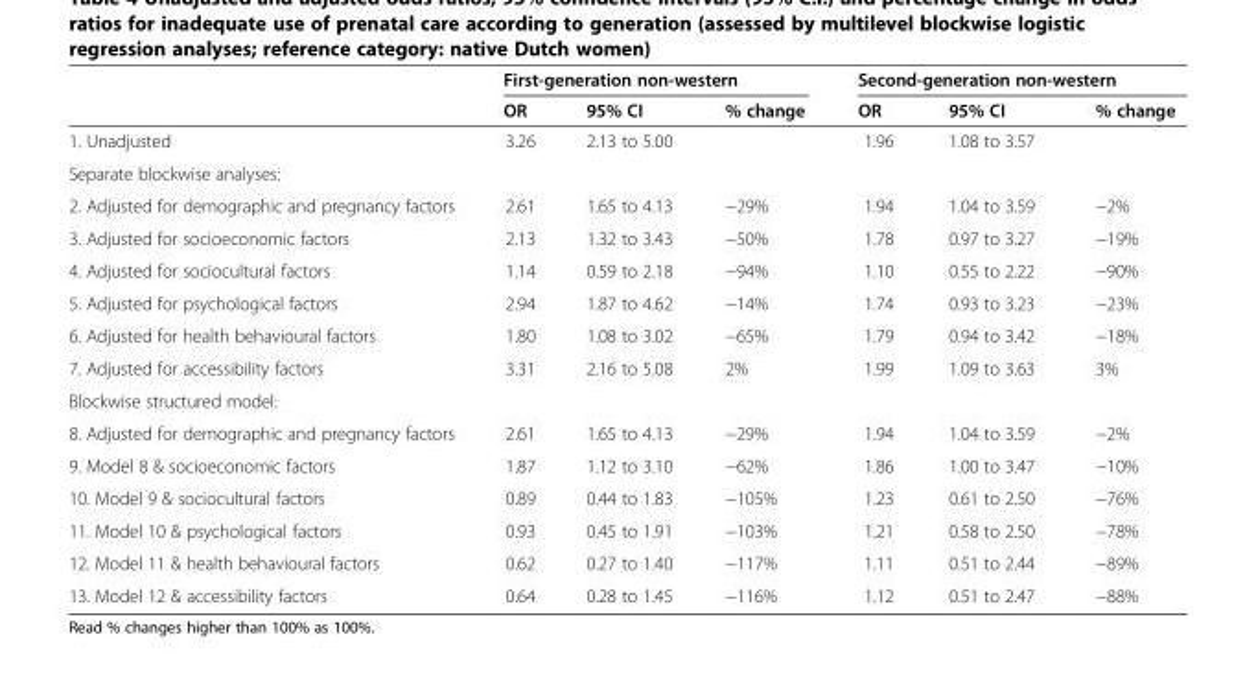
<table><thead><tr><td rowspan="2"></td><td colspan="3">First-generation non-western</td><td colspan="3">Second-generation non-western</td></tr><tr><td>OR</td><td>95% CI</td><td>% change</td><td>OR</td><td>95% CI</td><td>% change</td></tr></thead><tbody><tr><td>1. Unadjusted</td><td>3.26</td><td>2.13 to 5.00</td><td></td><td>1.96</td><td>1.08 to 3.57</td><td></td></tr><tr><td colspan="7">Separate blockwise analyses:</td></tr><tr><td>2. Adjusted for demographic and pregnancy factors</td><td>2.61</td><td>1.65 to 4.13</td><td>−29%</td><td>1.94</td><td>1.04 to 3.59</td><td>−2%</td></tr><tr><td>3. Adjusted for socioeconomic factors</td><td>2.13</td><td>1.32 to 3.43</td><td>−50%</td><td>1.78</td><td>0.97 to 3.27</td><td>−19%</td></tr><tr><td>4. Adjusted for sociocultural factors</td><td>1.14</td><td>0.59 to 2.18</td><td>−94%</td><td>1.10</td><td>0.55 to 2.22</td><td>−90%</td></tr><tr><td>5. Adjusted for psychological factors</td><td>2.94</td><td>1.87 to 4.62</td><td>−14%</td><td>1.74</td><td>0.93 to 3.23</td><td>−23%</td></tr><tr><td>6. Adjusted for health behavioural factors</td><td>1.80</td><td>1.08 to 3.02</td><td>−65%</td><td>1.79</td><td>0.94 to 3.42</td><td>−18%</td></tr><tr><td>7. Adjusted for accessibility factors</td><td>3.31</td><td>2.16 to 5.08</td><td>2%</td><td>1.99</td><td>1.09 to 3.63</td><td>3%</td></tr><tr><td colspan="7">Blockwise structured model:</td></tr><tr><td>8. Adjusted for demographic and pregnancy factors</td><td>2.61</td><td>1.65 to 4.13</td><td>−29%</td><td>1.94</td><td>1.04 to 3.59</td><td>−2%</td></tr><tr><td>9. Model 8 &amp; socioeconomic factors</td><td>1.87</td><td>1.12 to 3.10</td><td>−62%</td><td>1.86</td><td>1.00 to 3.47</td><td>−10%</td></tr><tr><td>10. Model 9 &amp; sociocultural factors</td><td>0.89</td><td>0.44 to 1.83</td><td>−105%</td><td>1.23</td><td>0.61 to 2.50</td><td>−76%</td></tr><tr><td>11. Model 10 &amp; psychological factors</td><td>0.93</td><td>0.45 to 1.91</td><td>−103%</td><td>1.21</td><td>0.58 to 2.50</td><td>−78%</td></tr><tr><td>12. Model 11 &amp; health behavioural factors</td><td>0.62</td><td>0.27 to 1.40</td><td>−117%</td><td>1.11</td><td>0.51 to 2.44</td><td>−89%</td></tr><tr><td>13. Model 12 &amp; accessibility factors</td><td>0.64</td><td>0.28 to 1.45</td><td>−116%</td><td>1.12</td><td>0.51 to 2.47</td><td>−88%</td></tr></tbody></table>